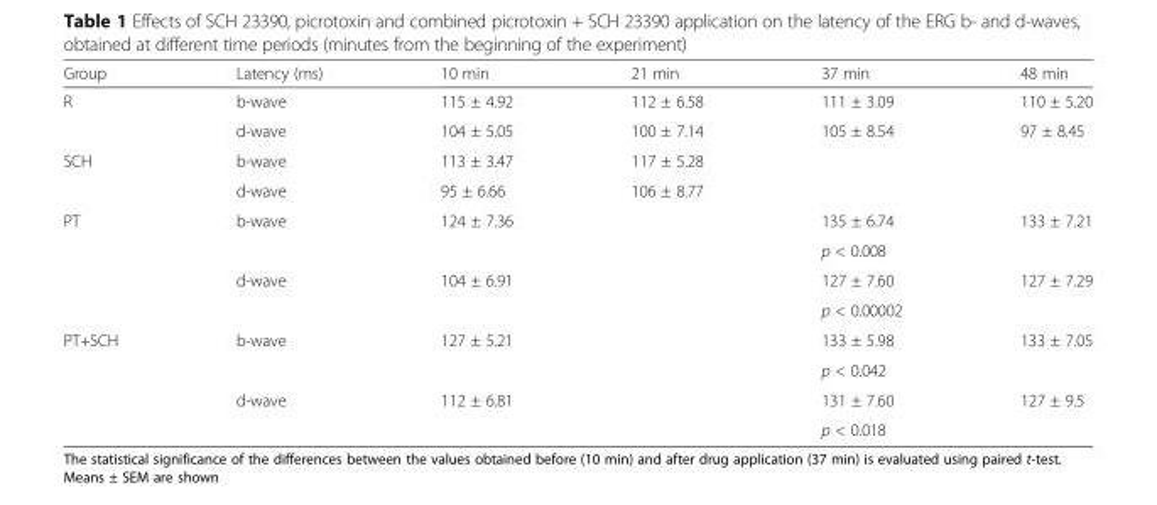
<table><thead><tr><td>Group</td><td>Latency (ms)</td><td>10 min</td><td>21 min</td><td>37 min</td><td>48 min</td></tr></thead><tbody><tr><td rowspan="2">R</td><td>b-wave</td><td>115 ± 4.92</td><td>112 ± 6.58</td><td>111 ± 3.09</td><td>110 ± 5.20</td></tr><tr><td>d-wave</td><td>104 ± 5.05</td><td>100 ± 7.14</td><td>105 ± 8.54</td><td>97 ± 8.45</td></tr><tr><td rowspan="2">SCH</td><td>b-wave</td><td>113 ± 3.47</td><td>117 ± 5.28</td><td></td><td></td></tr><tr><td>d-wave</td><td>95 ± 6.66</td><td>106 ± 8.77</td><td></td><td></td></tr><tr><td rowspan="4">PT</td><td>b-wave</td><td>124 ± 7.36</td><td></td><td>135 ± 6.74</td><td>133 ± 7.21</td></tr><tr><td></td><td></td><td></td><td>p &lt; 0.008</td><td></td></tr><tr><td>d-wave</td><td>104 ± 6.91</td><td></td><td>127 ± 7.60</td><td>127 ± 7.29</td></tr><tr><td></td><td></td><td></td><td>p &lt; 0.00002</td><td></td></tr><tr><td rowspan="4">PT+SCH</td><td>b-wave</td><td>127 ± 5.21</td><td></td><td>133 ± 5.98</td><td>133 ± 7.05</td></tr><tr><td></td><td></td><td></td><td>p &lt; 0.042</td><td></td></tr><tr><td>d-wave</td><td>112 ± 6.81</td><td></td><td>131 ± 7.60</td><td>127 ± 9.5</td></tr><tr><td></td><td></td><td></td><td>p &lt; 0.018</td><td></td></tr></tbody></table>